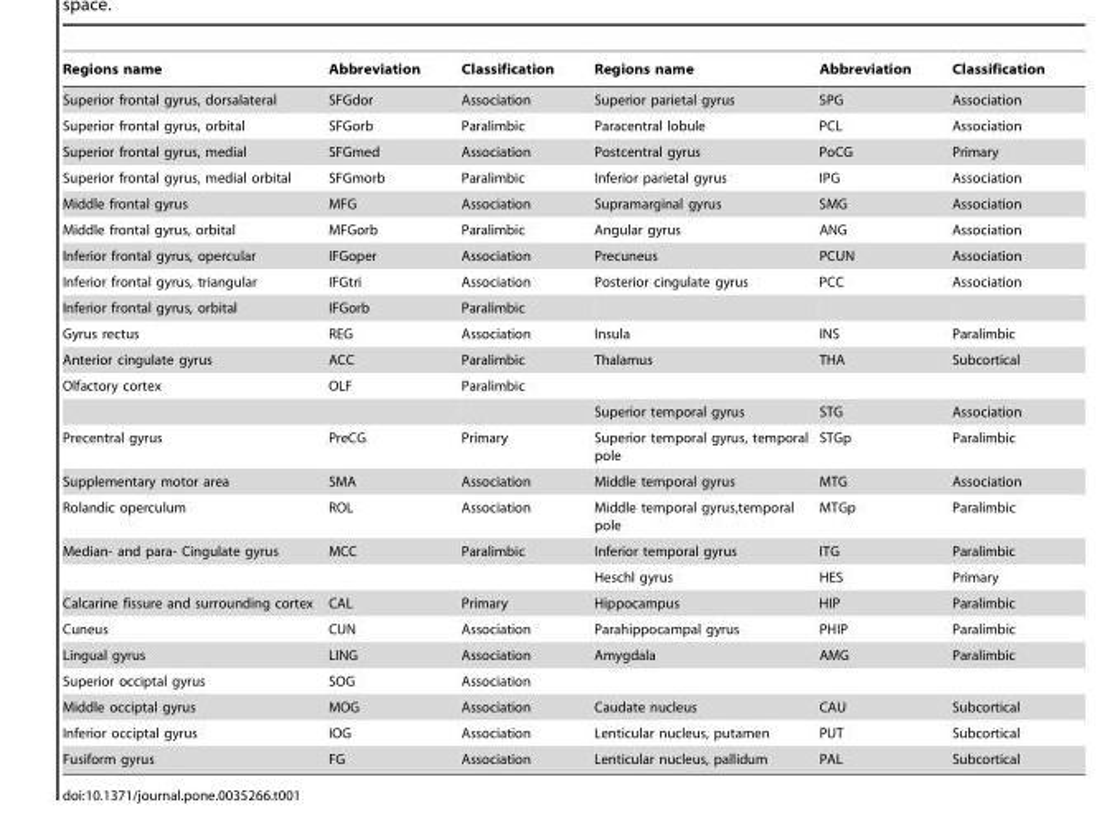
<table><thead><tr><td>Regions name</td><td>Abbreviation</td><td>Classification</td><td>Regions name</td><td>Abbreviation</td><td>Classification</td></tr></thead><tbody><tr><td>Superior frontal gyrus, dorsalateral</td><td>SFGdor</td><td>Association</td><td>Superior parietal gyrus</td><td>SPG</td><td>Association</td></tr><tr><td>Superior frontal gyrus, orbital</td><td>SFGorb</td><td>Paralimbic</td><td>Paracentral lobule</td><td>PCL</td><td>Association</td></tr><tr><td>Superior frontal gyrus, medial</td><td>SFGmed</td><td>Association</td><td>Postcentral gyrus</td><td>PoCG</td><td>Primary</td></tr><tr><td>Superior frontal gyrus, medial orbital</td><td>SFGmorb</td><td>Paralimbic</td><td>Inferior parietal gyrus</td><td>IPG</td><td>Association</td></tr><tr><td>Middle frontal gyrus</td><td>MFG</td><td>Association</td><td>Supramarginal gyrus</td><td>SMG</td><td>Association</td></tr><tr><td>Middle frontal gyrus, orbital</td><td>MFGorb</td><td>Paralimbic</td><td>Angular gyrus</td><td>ANG</td><td>Association</td></tr><tr><td>Inferior frontal gyrus, opercular</td><td>IFGoper</td><td>Association</td><td>Precuneus</td><td>PCUN</td><td>Association</td></tr><tr><td>Inferior frontal gyrus, triangular</td><td>IFGtri</td><td>Association</td><td>Posterior cingulate gyrus</td><td>PCC</td><td>Association</td></tr><tr><td>Inferior frontal gyrus, orbital</td><td>IFGorb</td><td>Paralimbic</td><td></td><td></td><td></td></tr><tr><td>Gyrus rectus</td><td>REG</td><td>Association</td><td>Insula</td><td>INS</td><td>Paralimbic</td></tr><tr><td>Anterior cingulate gyrus</td><td>ACC</td><td>Paralimbic</td><td>Thalamus</td><td>THA</td><td>Subcortical</td></tr><tr><td rowspan="2">Olfactory cortex</td><td>OLF</td><td>Paralimbic</td><td></td><td></td><td></td></tr><tr><td></td><td></td><td>Superior temporal gyrus</td><td>STG</td><td>Association</td></tr><tr><td>Precentral gyrus</td><td>PreCG</td><td>Primary</td><td>Superior temporal gyrus, temporal pole</td><td>STGp</td><td>Paralimbic</td></tr><tr><td>Supplementary motor area</td><td>SMA</td><td>Association</td><td>Middle temporal gyrus</td><td>MTG</td><td>Association</td></tr><tr><td>Rolandic operculum</td><td>ROL</td><td>Association</td><td>Middle temporal gyrus,temporal pole</td><td>MTGp</td><td>Paralimbic</td></tr><tr><td rowspan="2">Median- and para- Cingulate gyrus</td><td>MCC</td><td>Paralimbic</td><td>Inferior temporal gyrus</td><td>ITG</td><td>Paralimbic</td></tr><tr><td></td><td></td><td>Heschl gyrus</td><td>HES</td><td>Primary</td></tr><tr><td>Calcarine fissure and surrounding cortex</td><td>CAL</td><td>Primary</td><td>Hippocampus</td><td>HIP</td><td>Paralimbic</td></tr><tr><td>Cuneus</td><td>CUN</td><td>Association</td><td>Parahippocampal gyrus</td><td>PHIP</td><td>Paralimbic</td></tr><tr><td>Lingual gyrus</td><td>LING</td><td>Association</td><td>Amygdala</td><td>AMG</td><td>Paralimbic</td></tr><tr><td>Superior occiptal gyrus</td><td>SOG</td><td>Association</td><td></td><td></td><td></td></tr><tr><td>Middle occiptal gyrus</td><td>MOG</td><td>Association</td><td>Caudate nucleus</td><td>CAU</td><td>Subcortical</td></tr><tr><td>Inferior occiptal gyrus</td><td>IOG</td><td>Association</td><td>Lenticular nucleus, putamen</td><td>PUT</td><td>Subcortical</td></tr><tr><td>Fusiform gyrus</td><td>FG</td><td>Association</td><td>Lenticular nucleus, pallidum</td><td>PAL</td><td>Subcortical</td></tr></tbody></table>